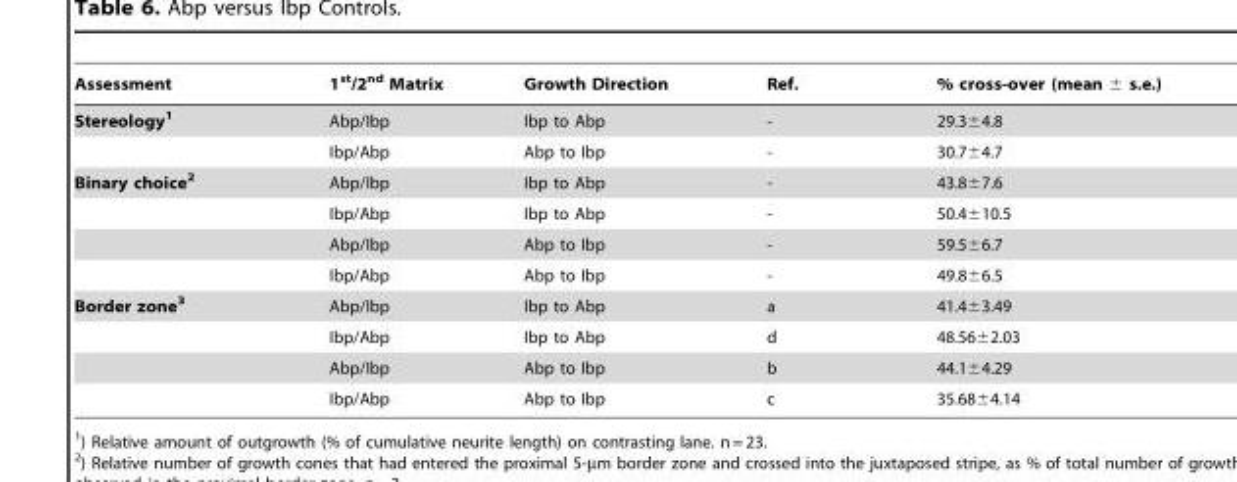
<table><thead><tr><td>Assessment</td><td>1<sup>st</sup>/2<sup>nd</sup> Matrix</td><td>Growth Direction</td><td>Ref.</td><td>% cross-over (mean ± s.e.)</td></tr></thead><tbody><tr><td rowspan="2">Stereology1</td><td>Abp/Ibp</td><td>Ibp to Abp</td><td>-</td><td>29.3±4.8</td></tr><tr><td>Ibp/Abp</td><td>Abp to Ibp</td><td>-</td><td>30.7±4.7</td></tr><tr><td rowspan="4">Binary choice2</td><td>Abp/Ibp</td><td>Ibp to Abp</td><td>-</td><td>43.8±7.6</td></tr><tr><td>Ibp/Abp</td><td>Ibp to Abp</td><td>-</td><td>50.4±10.5</td></tr><tr><td>Abp/Ibp</td><td>Abp to Ibp</td><td>-</td><td>59.5±6.7</td></tr><tr><td>Ibp/Abp</td><td>Abp to Ibp</td><td>-</td><td>49.8±6.5</td></tr><tr><td rowspan="4">Border zone3</td><td>Abp/Ibp</td><td>Ibp to Abp</td><td>a</td><td>41.4±3.49</td></tr><tr><td>Ibp/Abp</td><td>Ibp to Abp</td><td>d</td><td>48.56±2.03</td></tr><tr><td>Abp/Ibp</td><td>Abp to Ibp</td><td>b</td><td>44.1±4.29</td></tr><tr><td>Ibp/Abp</td><td>Abp to Ibp</td><td>c</td><td>35.68±4.14</td></tr></tbody></table>